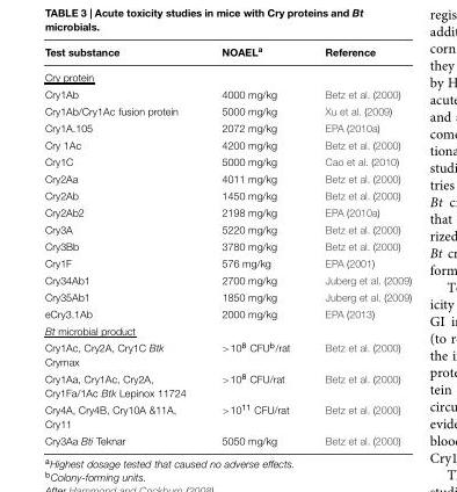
<table><thead><tr><td>Test substance</td><td>NOAEL<sup>a</sup></td><td>Reference</td></tr></thead><tbody><tr><td colspan="3">Cry protein</td></tr><tr><td>Cry1Ab</td><td>4000 mg/kg</td><td>Betz et al. (2000)</td></tr><tr><td>Cry1Ab/Cry1Ac fusion protein</td><td>5000 mg/kg</td><td>Xu et al. (2009)</td></tr><tr><td>Cry1A.105</td><td>2072 mg/kg</td><td>EPA (2010a)</td></tr><tr><td>Cry 1Ac</td><td>4200 mg/kg</td><td>Betz et al. (2000)</td></tr><tr><td>Cry1C</td><td>5000 mg/kg</td><td>Cao et al. (2010)</td></tr><tr><td>Cry2Aa</td><td>4011 mg/kg</td><td>Betz et al. (2000)</td></tr><tr><td>Cry2Ab</td><td>1450 mg/kg</td><td>Betz et al. (2000)</td></tr><tr><td>Cry2Ab2</td><td>2198 mg/kg</td><td>EPA (2010a)</td></tr><tr><td>Cry3A</td><td>5220 mg/kg</td><td>Betz et al. (2000)</td></tr><tr><td>Cry3Bb</td><td>3780 mg/kg</td><td>Betz et al. (2000)</td></tr><tr><td>Cry1F</td><td>576 mg/kg</td><td>EPA (2001)</td></tr><tr><td>Cry34Ab1</td><td>2700 mg/kg</td><td>Juberg et al. (2009)</td></tr><tr><td>Cry35Ab1</td><td>1850 mg/kg</td><td>Juberg et al. (2009)</td></tr><tr><td>eCry3.1Ab</td><td>2000 mg/kg</td><td>EPA (2013)</td></tr><tr><td colspan="3">Bt microbial product</td></tr><tr><td>Cry1Ac, Cry2A, Cry1C Btk Crymax</td><td>&gt;10<sup>8</sup> CFU<sup>b</sup>/rat</td><td>Betz et al. (2000)</td></tr><tr><td>Cry1Aa, Cry1Ac, Cry2A, Cry1Fa/1Ac Btk Lepinox 11724</td><td>&gt;10<sup>8</sup> CFU/rat</td><td>Betz et al. (2000)</td></tr><tr><td>Cry4A, Cry4B, Cry10A &amp;11A, Cry11</td><td>&gt;10<sup>11</sup> CFU/rat</td><td>Betz et al. (2000)</td></tr><tr><td>Cry3Aa Bti Teknar</td><td>5050 mg/kg</td><td>Betz et al. (2000)</td></tr></tbody></table>